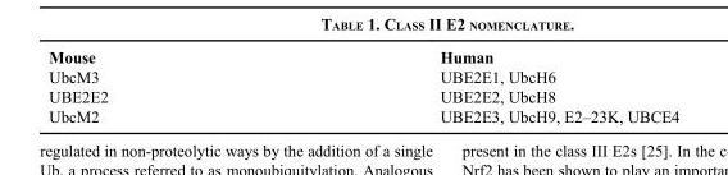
<table><thead><tr><td>Mouse</td><td>Human</td></tr></thead><tbody><tr><td>UbcM3</td><td>UBE2E1, UbcH6</td></tr><tr><td>UBE2E2</td><td>UBE2E2, UbcH8</td></tr><tr><td>UbcM2</td><td>UBE2E3, UbcH9, E2–23K, UBCE4</td></tr></tbody></table>